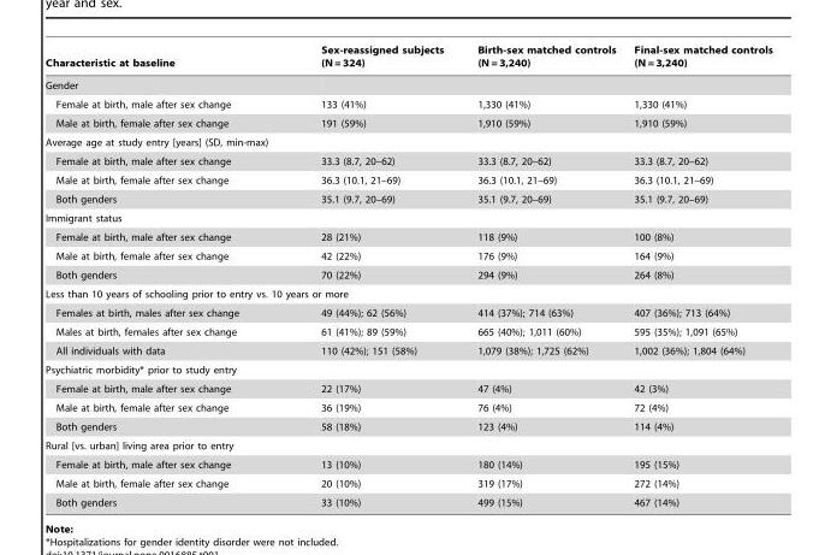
<table><thead><tr><td>Characteristic at baseline</td><td>Sex-reassigned subjects (N = 324)</td><td>Birth-sex matched controls (N = 3,240)</td><td>Final-sex matched controls (N = 3,240)</td></tr></thead><tbody><tr><td colspan="4">Gender</td></tr><tr><td>Female at birth, male after sex change</td><td>133 (41%)</td><td>1,330 (41%)</td><td>1,330 (41%)</td></tr><tr><td>Male at birth, female after sex change</td><td>191 (59%)</td><td>1,910 (59%)</td><td>1,910 (59%)</td></tr><tr><td colspan="4">Average age at study entry [years] (SD, min-max)</td></tr><tr><td>Female at birth, male after sex change</td><td>33.3 (8.7, 20–62)</td><td>33.3 (8.7, 20–62)</td><td>33.3 (8.7, 20–62)</td></tr><tr><td>Male at birth, female after sex change</td><td>36.3 (10.1, 21–69)</td><td>36.3 (10.1, 21–69)</td><td>36.3 (10.1, 21–69)</td></tr><tr><td>Both genders</td><td>35.1 (9.7, 20–69)</td><td>35.1 (9.7, 20–69)</td><td>35.1 (9.7, 20–69)</td></tr><tr><td colspan="4">Immigrant status</td></tr><tr><td>Female at birth, male after sex change</td><td>28 (21%)</td><td>118 (9%)</td><td>100 (8%)</td></tr><tr><td>Male at birth, female after sex change</td><td>42 (22%)</td><td>176 (9%)</td><td>164 (9%)</td></tr><tr><td>Both genders</td><td>70 (22%)</td><td>294 (9%)</td><td>264 (8%)</td></tr><tr><td colspan="4">Less than 10 years of schooling prior to entry vs. 10 years or more</td></tr><tr><td>Females at birth, males after sex change</td><td>49 (44%); 62 (56%)</td><td>414 (37%); 714 (63%)</td><td>407 (36%); 713 (64%)</td></tr><tr><td>Males at birth, females after sex change</td><td>61 (41%); 89 (59%)</td><td>665 (40%); 1,011 (60%)</td><td>595 (35%); 1,091 (65%)</td></tr><tr><td>All individuals with data</td><td>110 (42%); 151 (58%)</td><td>1,079 (38%); 1,725 (62%)</td><td>1,002 (36%); 1,804 (64%)</td></tr><tr><td colspan="4">Psychiatric morbidity* prior to study entry</td></tr><tr><td>Female at birth, male after sex change</td><td>22 (17%)</td><td>47 (4%)</td><td>42 (3%)</td></tr><tr><td>Male at birth, female after sex change</td><td>36 (19%)</td><td>76 (4%)</td><td>72 (4%)</td></tr><tr><td>Both genders</td><td>58 (18%)</td><td>123 (4%)</td><td>114 (4%)</td></tr><tr><td colspan="4">Rural [vs. urban] living area prior to entry</td></tr><tr><td>Female at birth, male after sex change</td><td>13 (10%)</td><td>180 (14%)</td><td>195 (15%)</td></tr><tr><td>Male at birth, female after sex change</td><td>20 (10%)</td><td>319 (17%)</td><td>272 (14%)</td></tr><tr><td>Both genders</td><td>33 (10%)</td><td>499 (15%)</td><td>467 (14%)</td></tr></tbody></table>